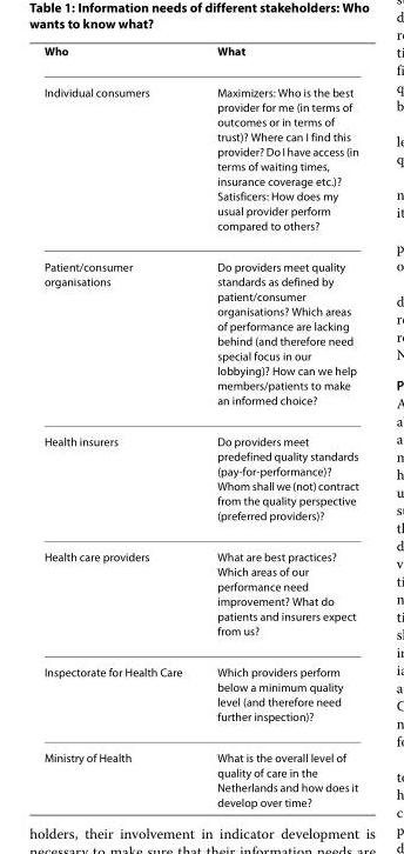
<table><thead><tr><td>Who</td><td>What</td></tr></thead><tbody><tr><td>Individual consumers</td><td>Maximizers: Who is the best provider for me (in terms of outcomes or in terms of trust)? Where can I find this provider? Do I have access (in terms of waiting times, insurance coverage etc.)? Satisficers: How does my usual provider perform compared to others?</td></tr><tr><td>Patient/consumer organisations</td><td>Do providers meet quality standards as defined by patient/consumer organisations? Which areas of performance are lacking behind (and therefore need special focus in our lobbying)? How can we help members/patients to make an informed choice?</td></tr><tr><td>Health insurers</td><td>Do providers meet predefined quality standards (pay-for-performance)? Whom shall we (not) contract from the quality perspective (preferred providers)?</td></tr><tr><td>Health care providers</td><td>What are best practices? Which areas of our performance need improvement? What do patients and insurers expect from us?</td></tr><tr><td>Inspectorate for Health Care</td><td>Which providers perform below a minimum quality level (and therefore need further inspection)?</td></tr><tr><td>Ministry of Health</td><td>What is the overall level of quality of care in the Netherlands and how does it develop over time?</td></tr></tbody></table>